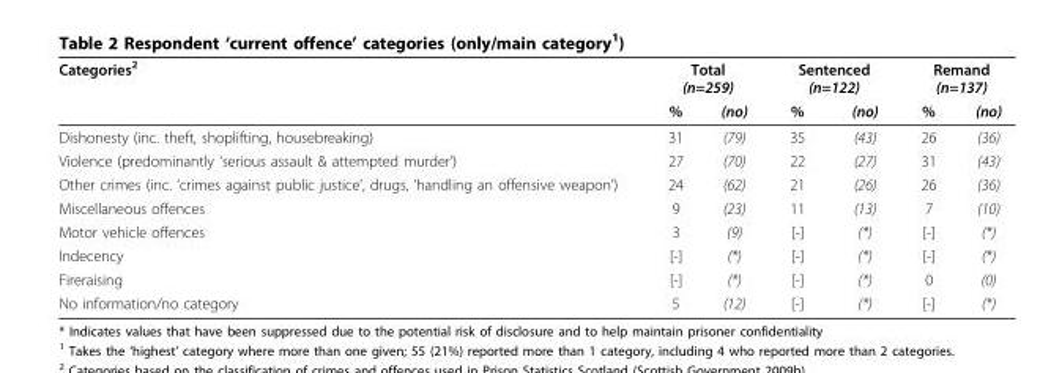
<table><thead><tr><td rowspan="2">Categories<sup>2</sup></td><td colspan="2">Total (n=259)</td><td colspan="2">Sentenced (n=122)</td><td colspan="2">Remand (n=137)</td></tr><tr><td>%</td><td>(no)</td><td>%</td><td>(no)</td><td>%</td><td>(no)</td></tr></thead><tbody><tr><td>Dishonesty (inc. theft, shoplifting, housebreaking)</td><td>31</td><td>(79)</td><td>35</td><td>(43)</td><td>26</td><td>(36)</td></tr><tr><td>Violence (predominantly ‘serious assault &amp; attempted murder’)</td><td>27</td><td>(70)</td><td>22</td><td>(27)</td><td>31</td><td>(43)</td></tr><tr><td>Other crimes (inc. ‘crimes against public justice’, drugs, ‘handling an offensive weapon’)</td><td>24</td><td>(62)</td><td>21</td><td>(26)</td><td>26</td><td>(36)</td></tr><tr><td>Miscellaneous offences</td><td>9</td><td>(23)</td><td>11</td><td>(13)</td><td>7</td><td>(10)</td></tr><tr><td>Motor vehicle offences</td><td>3</td><td>(9)</td><td>[-]</td><td>(*)</td><td>[-]</td><td>(*)</td></tr><tr><td>Indecency</td><td>[-]</td><td>(*)</td><td>[-]</td><td>(*)</td><td>[-]</td><td>(*)</td></tr><tr><td>Fireraising</td><td>[-]</td><td>(*)</td><td>[-]</td><td>(*)</td><td>0</td><td>(0)</td></tr><tr><td>No information/no category</td><td>5</td><td>(12)</td><td>[-]</td><td>(*)</td><td>[-]</td><td>(*)</td></tr></tbody></table>